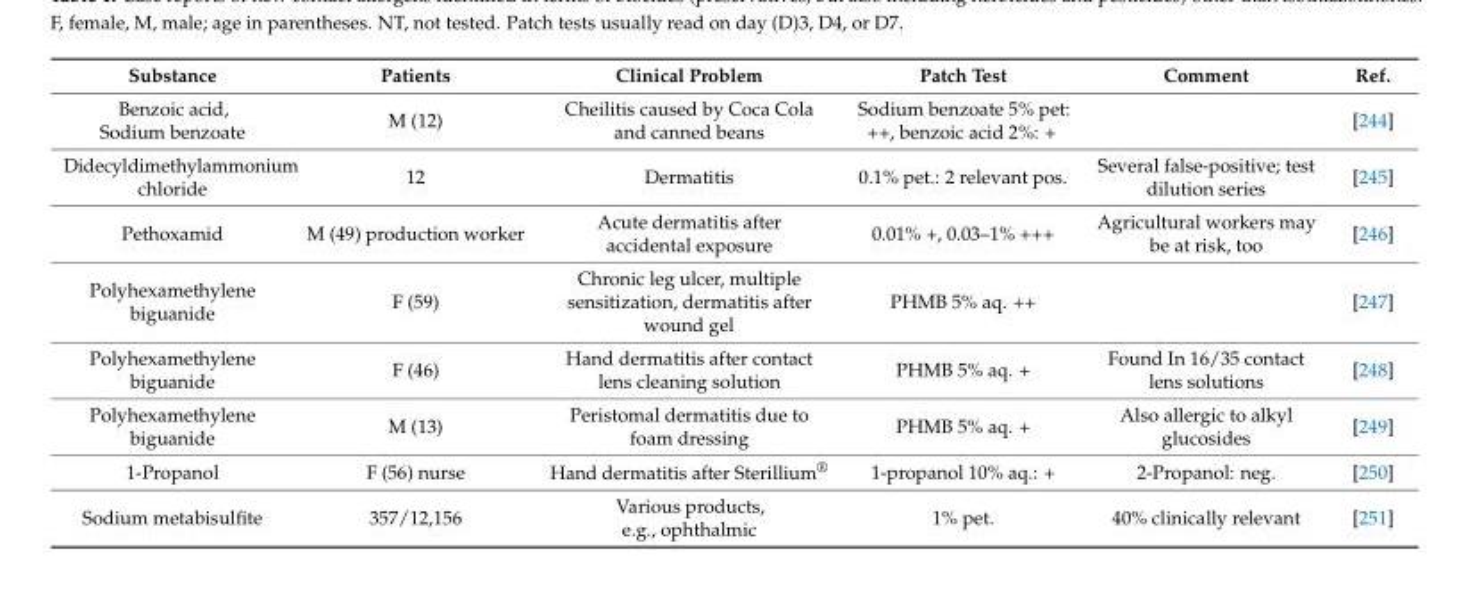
<table><thead><tr><td>Substance</td><td>Patients</td><td>Clinical Problem</td><td>Patch Test</td><td>Comment</td><td>Ref.</td></tr></thead><tbody><tr><td>Benzoic acid, Sodium benzoate</td><td>M (12)</td><td>Cheilitis caused by Coca Cola and canned beans</td><td>Sodium benzoate 5% pet: ++, benzoic acid 2%: +</td><td></td><td>[244]</td></tr><tr><td>Didecyldimethylammonium chloride</td><td>12</td><td>Dermatitis</td><td>0.1% pet.: 2 relevant pos.</td><td>Several false-positive; test dilution series</td><td>[245]</td></tr><tr><td>Pethoxamid</td><td>M (49) production worker</td><td>Acute dermatitis after accidental exposure</td><td>0.01% +, 0.03–1% +++</td><td>Agricultural workers may be at risk, too</td><td>[246]</td></tr><tr><td>Polyhexamethylene biguanide</td><td>F (59)</td><td>Chronic leg ulcer, multiple sensitization, dermatitis after wound gel</td><td>PHMB 5% aq. ++</td><td></td><td>[247]</td></tr><tr><td>Polyhexamethylene biguanide</td><td>F (46)</td><td>Hand dermatitis after contact lens cleaning solution</td><td>PHMB 5% aq. +</td><td>Found In 16/35 contact lens solutions</td><td>[248]</td></tr><tr><td>Polyhexamethylene biguanide</td><td>M (13)</td><td>Peristomal dermatitis due to foam dressing</td><td>PHMB 5% aq. +</td><td>Also allergic to alkyl glucosides</td><td>[249]</td></tr><tr><td>1-Propanol</td><td>F (56) nurse</td><td>Hand dermatitis after Sterillium<sup>®</sup></td><td>1-propanol 10% aq.: +</td><td>2-Propanol: neg.</td><td>[250]</td></tr><tr><td>Sodium metabisulfite</td><td>357/12,156</td><td>Various products, e.g., ophthalmic</td><td>1% pet.</td><td>40% clinically relevant</td><td>[251]</td></tr></tbody></table>